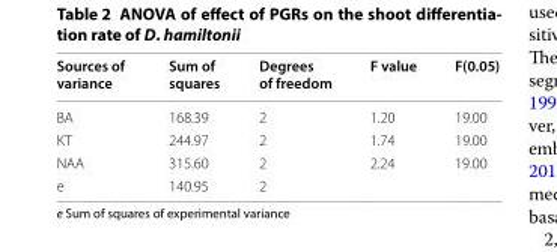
<table><thead><tr><td>Sources of variance</td><td>Sum of squares</td><td>Degrees of freedom</td><td>F value</td><td>F(0.05)</td></tr></thead><tbody><tr><td>BA</td><td>168.39</td><td>2</td><td>1.20</td><td>19.00</td></tr><tr><td>KT</td><td>244.97</td><td>2</td><td>1.74</td><td>19.00</td></tr><tr><td>NAA</td><td>315.60</td><td>2</td><td>2.24</td><td>19.00</td></tr><tr><td>e</td><td>140.95</td><td>2</td><td></td><td></td></tr></tbody></table>